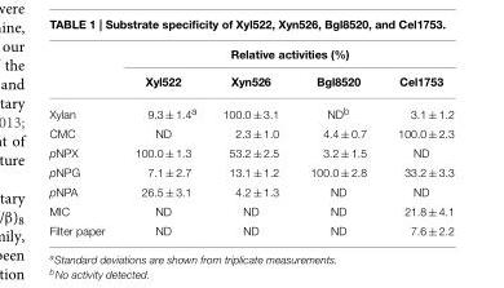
<table><thead><tr><td rowspan="2"></td><td colspan="4">Relative activities (%)</td></tr><tr><td>Xyl522</td><td>Xyn526</td><td>Bgl8520</td><td>Cel1753</td></tr></thead><tbody><tr><td>Xylan</td><td>9.3 ± 1.4<sup>a</sup></td><td>100.0 ± 3.1</td><td>ND<sup>b</sup></td><td>3.1 ± 1.2</td></tr><tr><td>CMC</td><td>ND</td><td>2.3 ± 1.0</td><td>4.4 ± 0.7</td><td>100.0 ± 2.3</td></tr><tr><td>pNPX</td><td>100.0 ± 1.3</td><td>53.2 ± 2.5</td><td>3.2 ± 1.5</td><td>ND</td></tr><tr><td>pNPG</td><td>7.1 ± 2.7</td><td>13.1 ± 1.2</td><td>100.0 ± 2.8</td><td>33.2 ± 3.3</td></tr><tr><td>pNPA</td><td>26.5 ± 3.1</td><td>4.2 ± 1.3</td><td>ND</td><td>ND</td></tr><tr><td>MIC</td><td>ND</td><td>ND</td><td>ND</td><td>21.8 ± 4.1</td></tr><tr><td>Filter paper</td><td>ND</td><td>ND</td><td>ND</td><td>7.6 ± 2.2</td></tr></tbody></table>